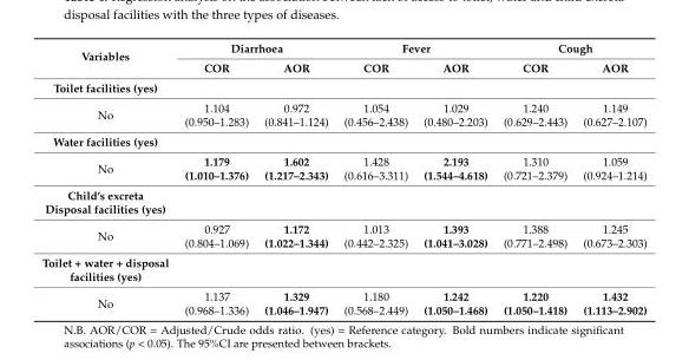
<table><thead><tr><td rowspan="2">Variables</td><td colspan="2">Diarrhoea</td><td colspan="2">Fever</td><td colspan="2">Cough</td></tr><tr><td>COR</td><td>AOR</td><td>COR</td><td>AOR</td><td>COR</td><td>AOR</td></tr></thead><tbody><tr><td colspan="7">Toilet facilities (yes)</td></tr><tr><td>No</td><td>1.104 (0.950–1.283)</td><td>0.972 (0.841–1.124)</td><td>1.054 (0.456–2.438)</td><td>1.029 (0.480–2.203)</td><td>1.240 (0.629–2.443)</td><td>1.149 (0.627–2.107)</td></tr><tr><td colspan="7">Water facilities (yes)</td></tr><tr><td>No</td><td>1.179 (1.010–1.376)</td><td>1.602 (1.217–2.343)</td><td>1.428 (0.616–3.311)</td><td>2.193 (1.544–4.618)</td><td>1.310 (0.721–2.379)</td><td>1.059 (0.924–1.214)</td></tr><tr><td colspan="7">Child’s excreta Disposal facilities (yes)</td></tr><tr><td>No</td><td>0.927 (0.804–1.069)</td><td>1.172 (1.022–1.344)</td><td>1.013 (0.442–2.325)</td><td>1.393 (1.041–3.028)</td><td>1.388 (0.771–2.498)</td><td>1.245 (0.673–2.303)</td></tr><tr><td colspan="7">Toilet + water + disposal facilities (yes)</td></tr><tr><td>No</td><td>1.137 (0.968–1.336)</td><td>1.329 (1.046–1.947)</td><td>1.180 (0.568–2.449)</td><td>1.242 (1.050–1.468)</td><td>1.220 (1.050–1.418)</td><td>1.432 (1.113–2.902)</td></tr></tbody></table>